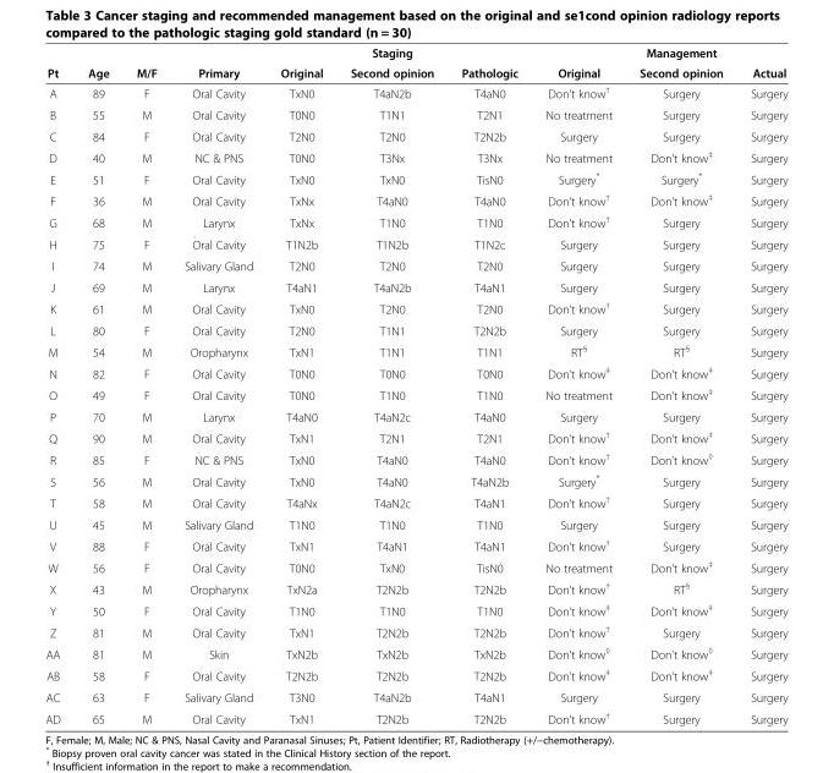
<table><thead><tr><td rowspan="2">Pt</td><td rowspan="2">Age</td><td rowspan="2">M/F</td><td rowspan="2">Primary</td><td rowspan="2">Original</td><td rowspan="2">Staging Second opinion</td><td rowspan="2">Pathologic</td><td rowspan="2">Original</td><td rowspan="2">Management Second opinion</td><td rowspan="2">Actual</td></tr><tr></tr></thead><tbody><tr><td>A</td><td>89</td><td>F</td><td>Oral Cavity</td><td>TxN0</td><td>T4aN2b</td><td>T4aN0</td><td>Don’t know<sup>†</sup></td><td>Surgery</td><td>Surgery</td></tr><tr><td>B</td><td>55</td><td>M</td><td>Oral Cavity</td><td>T0N0</td><td>T1N1</td><td>T2N1</td><td>No treatment</td><td>Surgery</td><td>Surgery</td></tr><tr><td>C</td><td>84</td><td>F</td><td>Oral Cavity</td><td>T2N0</td><td>T2N0</td><td>T2N2b</td><td>Surgery</td><td>Surgery</td><td>Surgery</td></tr><tr><td>D</td><td>40</td><td>M</td><td>NC &amp; PNS</td><td>T0N0</td><td>T3Nx</td><td>T3Nx</td><td>No treatment</td><td>Don’t know<sup>‡</sup></td><td>Surgery</td></tr><tr><td>E</td><td>51</td><td>F</td><td>Oral Cavity</td><td>TxN0</td><td>TxN0</td><td>TisN0</td><td>Surgery*</td><td>Surgery*</td><td>Surgery</td></tr><tr><td>F</td><td>36</td><td>M</td><td>Oral Cavity</td><td>TxNx</td><td>T4aN0</td><td>T4aN0</td><td>Don’t know<sup>†</sup></td><td>Don’t know<sup>‡</sup></td><td>Surgery</td></tr><tr><td>G</td><td>68</td><td>M</td><td>Larynx</td><td>TxNx</td><td>T1N0</td><td>T1N0</td><td>Don’t know<sup>†</sup></td><td>Surgery</td><td>Surgery</td></tr><tr><td>H</td><td>75</td><td>F</td><td>Oral Cavity</td><td>T1N2b</td><td>T1N2b</td><td>T1N2c</td><td>Surgery</td><td>Surgery</td><td>Surgery</td></tr><tr><td>I</td><td>74</td><td>M</td><td>Salivary Gland</td><td>T2N0</td><td>T2N0</td><td>T2N0</td><td>Surgery</td><td>Surgery</td><td>Surgery</td></tr><tr><td>J</td><td>69</td><td>M</td><td>Larynx</td><td>T4aN1</td><td>T4aN2b</td><td>T4aN1</td><td>Surgery</td><td>Surgery</td><td>Surgery</td></tr><tr><td>K</td><td>61</td><td>M</td><td>Oral Cavity</td><td>TxN0</td><td>T2N0</td><td>T2N0</td><td>Don’t know<sup>†</sup></td><td>Surgery</td><td>Surgery</td></tr><tr><td>L</td><td>80</td><td>F</td><td>Oral Cavity</td><td>T2N0</td><td>T1N1</td><td>T2N2b</td><td>Surgery</td><td>Surgery</td><td>Surgery</td></tr><tr><td>M</td><td>54</td><td>M</td><td>Oropharynx</td><td>TxN1</td><td>T1N1</td><td>T1N1</td><td>RT<sup>§</sup></td><td>RT<sup>§</sup></td><td>Surgery</td></tr><tr><td>N</td><td>82</td><td>F</td><td>Oral Cavity</td><td>T0N0</td><td>T0N0</td><td>T0N0</td><td>Don’t know<sup>‡</sup></td><td>Don’t know<sup>‡</sup></td><td>Surgery</td></tr><tr><td>O</td><td>49</td><td>F</td><td>Oral Cavity</td><td>T0N0</td><td>T1N0</td><td>T1N0</td><td>No treatment</td><td>Don’t know<sup>‡</sup></td><td>Surgery</td></tr><tr><td>P</td><td>70</td><td>M</td><td>Larynx</td><td>T4aN0</td><td>T4aN2c</td><td>T4aN0</td><td>Surgery</td><td>Surgery</td><td>Surgery</td></tr><tr><td>Q</td><td>90</td><td>M</td><td>Oral Cavity</td><td>TxN1</td><td>T2N1</td><td>T2N1</td><td>Don’t know<sup>†</sup></td><td>Don’t know<sup>‡</sup></td><td>Surgery</td></tr><tr><td>R</td><td>85</td><td>F</td><td>NC &amp; PNS</td><td>TxN0</td><td>T4aN0</td><td>T4aN0</td><td>Don’t know<sup>†</sup></td><td>Don’t know<sup>◊</sup></td><td>Surgery</td></tr><tr><td>S</td><td>56</td><td>M</td><td>Oral Cavity</td><td>TxN0</td><td>T4aN0</td><td>T4aN2b</td><td>Surgery*</td><td>Surgery</td><td>Surgery</td></tr><tr><td>T</td><td>58</td><td>M</td><td>Oral Cavity</td><td>T4aNx</td><td>T4aN2c</td><td>T4aN1</td><td>Don’t know<sup>†</sup></td><td>Surgery</td><td>Surgery</td></tr><tr><td>U</td><td>45</td><td>M</td><td>Salivary Gland</td><td>T1N0</td><td>T1N0</td><td>T1N0</td><td>Surgery</td><td>Surgery</td><td>Surgery</td></tr><tr><td>V</td><td>88</td><td>F</td><td>Oral Cavity</td><td>TxN1</td><td>T4aN1</td><td>T4aN1</td><td>Don’t know<sup>†</sup></td><td>Surgery</td><td>Surgery</td></tr><tr><td>W</td><td>56</td><td>F</td><td>Oral Cavity</td><td>T0N0</td><td>TxN0</td><td>TisN0</td><td>No treatment</td><td>Don’t know<sup>‡</sup></td><td>Surgery</td></tr><tr><td>X</td><td>43</td><td>M</td><td>Oropharynx</td><td>TxN2a</td><td>T2N2b</td><td>T2N2b</td><td>Don’t know<sup>†</sup></td><td>RT<sup>§</sup></td><td>Surgery</td></tr><tr><td>Y</td><td>50</td><td>F</td><td>Oral Cavity</td><td>T1N0</td><td>T1N0</td><td>T1N0</td><td>Don’t know<sup>‡</sup></td><td>Don’t know<sup>‡</sup></td><td>Surgery</td></tr><tr><td>Z</td><td>81</td><td>M</td><td>Oral Cavity</td><td>TxN1</td><td>T2N2b</td><td>T2N2b</td><td>Don’t know<sup>†</sup></td><td>Surgery</td><td>Surgery</td></tr><tr><td>AA</td><td>81</td><td>M</td><td>Skin</td><td>TxN2b</td><td>TxN2b</td><td>TxN2b</td><td>Don’t know<sup>◊</sup></td><td>Don’t know<sup>◊</sup></td><td>Surgery</td></tr><tr><td>AB</td><td>58</td><td>F</td><td>Oral Cavity</td><td>T2N2b</td><td>T2N2b</td><td>T2N2b</td><td>Don’t know<sup>‡</sup></td><td>Don’t know<sup>‡</sup></td><td>Surgery</td></tr><tr><td>AC</td><td>63</td><td>F</td><td>Salivary Gland</td><td>T3N0</td><td>T4aN2b</td><td>T4aN1</td><td>Surgery</td><td>Surgery</td><td>Surgery</td></tr><tr><td>AD</td><td>65</td><td>M</td><td>Oral Cavity</td><td>TxN1</td><td>T2N2b</td><td>T2N2b</td><td>Don’t know<sup>†</sup></td><td>Surgery</td><td>Surgery</td></tr></tbody></table>